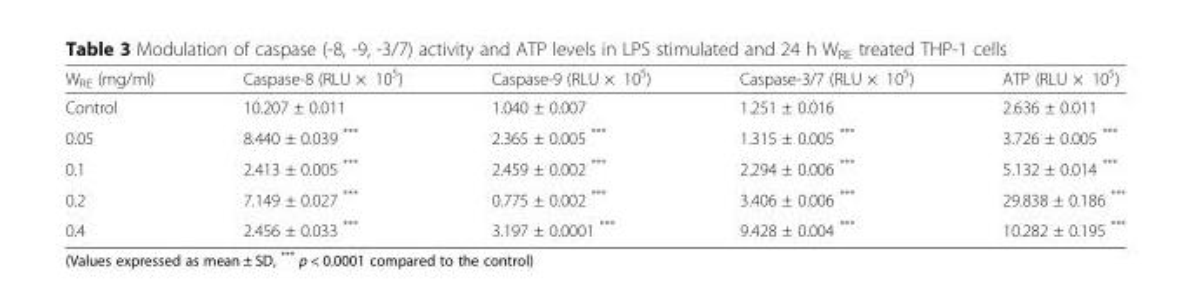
<table><thead><tr><td>W<sub>RE</sub> (mg/ml)</td><td>Caspase-8 (RLU × 10<sup>5</sup>)</td><td>Caspase-9 (RLU × 10<sup>5</sup>)</td><td>Caspase-3/7 (RLU × 10<sup>5</sup>)</td><td>ATP (RLU × 10<sup>5</sup>)</td></tr></thead><tbody><tr><td>Control</td><td>10.207 ± 0.011</td><td>1.040 ± 0.007</td><td>1.251 ± 0.016</td><td>2.636 ± 0.011</td></tr><tr><td>0.05</td><td>8.440 ± 0.039 ***</td><td>2.365 ± 0.005 ***</td><td>1.315 ± 0.005 ***</td><td>3.726 ± 0.005 ***</td></tr><tr><td>0.1</td><td>2.413 ± 0.005 ***</td><td>2.459 ± 0.002 ***</td><td>2.294 ± 0.006 ***</td><td>5.132 ± 0.014 ***</td></tr><tr><td>0.2</td><td>7.149 ± 0.027 ***</td><td>0.775 ± 0.002 ***</td><td>3.406 ± 0.006 ***</td><td>29.838 ± 0.186 ***</td></tr><tr><td>0.4</td><td>2.456 ± 0.033 ***</td><td>3.197 ± 0.0001 ***</td><td>9.428 ± 0.004 ***</td><td>10.282 ± 0.195 ***</td></tr></tbody></table>